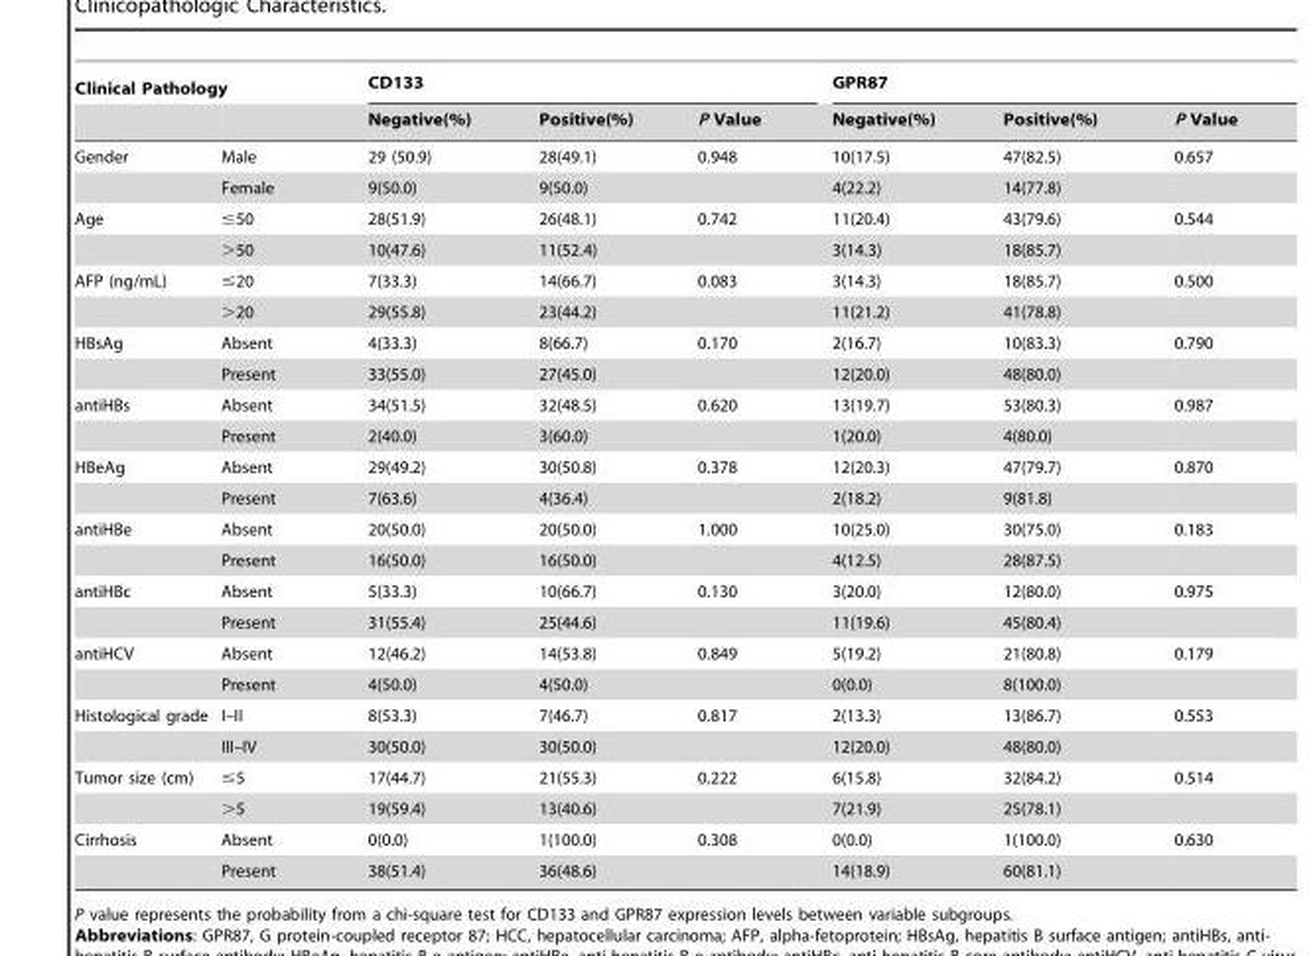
<table><thead><tr><td colspan="2">Clinical Pathology</td><td colspan="3">CD133</td><td colspan="3">GPR87</td></tr><tr><td></td><td></td><td>Negative(%)</td><td>Positive(%)</td><td>P Value</td><td>Negative(%)</td><td>Positive(%)</td><td>P Value</td></tr></thead><tbody><tr><td rowspan="2">Gender</td><td>Male</td><td>29 (50.9)</td><td>28(49.1)</td><td>0.948</td><td>10(17.5)</td><td>47(82.5)</td><td>0.657</td></tr><tr><td>Female</td><td>9(50.0)</td><td>9(50.0)</td><td></td><td>4(22.2)</td><td>14(77.8)</td><td></td></tr><tr><td rowspan="2">Age</td><td>≤50</td><td>28(51.9)</td><td>26(48.1)</td><td>0.742</td><td>11(20.4)</td><td>43(79.6)</td><td>0.544</td></tr><tr><td>&gt;50</td><td>10(47.6)</td><td>11(52.4)</td><td></td><td>3(14.3)</td><td>18(85.7)</td><td></td></tr><tr><td rowspan="2">AFP (ng/mL)</td><td>≤20</td><td>7(33.3)</td><td>14(66.7)</td><td>0.083</td><td>3(14.3)</td><td>18(85.7)</td><td>0.500</td></tr><tr><td>&gt;20</td><td>29(55.8)</td><td>23(44.2)</td><td></td><td>11(21.2)</td><td>41(78.8)</td><td></td></tr><tr><td rowspan="2">HBsAg</td><td>Absent</td><td>4(33.3)</td><td>8(66.7)</td><td>0.170</td><td>2(16.7)</td><td>10(83.3)</td><td>0.790</td></tr><tr><td>Present</td><td>33(55.0)</td><td>27(45.0)</td><td></td><td>12(20.0)</td><td>48(80.0)</td><td></td></tr><tr><td rowspan="2">antiHBs</td><td>Absent</td><td>34(51.5)</td><td>32(48.5)</td><td>0.620</td><td>13(19.7)</td><td>53(80.3)</td><td>0.987</td></tr><tr><td>Present</td><td>2(40.0)</td><td>3(60.0)</td><td></td><td>1(20.0)</td><td>4(80.0)</td><td></td></tr><tr><td rowspan="2">HBeAg</td><td>Absent</td><td>29(49.2)</td><td>30(50.8)</td><td>0.378</td><td>12(20.3)</td><td>47(79.7)</td><td>0.870</td></tr><tr><td>Present</td><td>7(63.6)</td><td>4(36.4)</td><td></td><td>2(18.2)</td><td>9(81.8)</td><td></td></tr><tr><td rowspan="2">antiHBe</td><td>Absent</td><td>20(50.0)</td><td>20(50.0)</td><td>1.000</td><td>10(25.0)</td><td>30(75.0)</td><td>0.183</td></tr><tr><td>Present</td><td>16(50.0)</td><td>16(50.0)</td><td></td><td>4(12.5)</td><td>28(87.5)</td><td></td></tr><tr><td rowspan="2">antiHBc</td><td>Absent</td><td>5(33.3)</td><td>10(66.7)</td><td>0.130</td><td>3(20.0)</td><td>12(80.0)</td><td>0.975</td></tr><tr><td>Present</td><td>31(55.4)</td><td>25(44.6)</td><td></td><td>11(19.6)</td><td>45(80.4)</td><td></td></tr><tr><td rowspan="2">antiHCV</td><td>Absent</td><td>12(46.2)</td><td>14(53.8)</td><td>0.849</td><td>5(19.2)</td><td>21(80.8)</td><td>0.179</td></tr><tr><td>Present</td><td>4(50.0)</td><td>4(50.0)</td><td></td><td>0(0.0)</td><td>8(100.0)</td><td></td></tr><tr><td rowspan="2">Histological grade</td><td>I–II</td><td>8(53.3)</td><td>7(46.7)</td><td>0.817</td><td>2(13.3)</td><td>13(86.7)</td><td>0.553</td></tr><tr><td>III–IV</td><td>30(50.0)</td><td>30(50.0)</td><td></td><td>12(20.0)</td><td>48(80.0)</td><td></td></tr><tr><td rowspan="2">Tumor size (cm)</td><td>≤5</td><td>17(44.7)</td><td>21(55.3)</td><td>0.222</td><td>6(15.8)</td><td>32(84.2)</td><td>0.514</td></tr><tr><td>&gt;5</td><td>19(59.4)</td><td>13(40.6)</td><td></td><td>7(21.9)</td><td>25(78.1)</td><td></td></tr><tr><td rowspan="2">Cirrhosis</td><td>Absent</td><td>0(0.0)</td><td>1(100.0)</td><td>0.308</td><td>0(0.0)</td><td>1(100.0)</td><td>0.630</td></tr><tr><td>Present</td><td>38(51.4)</td><td>36(48.6)</td><td></td><td>14(18.9)</td><td>60(81.1)</td><td></td></tr></tbody></table>